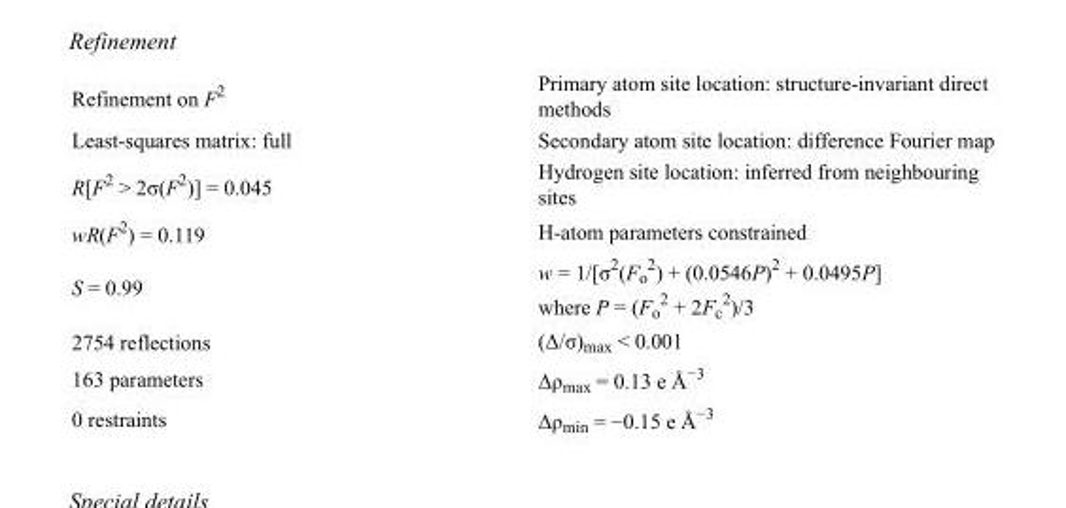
<table><tbody><tr><td>Refinement on F<sup>2</sup></td><td>Primary atom site location: structure-invariant direct methods</td></tr><tr><td>Least-squares matrix: full</td><td>Secondary atom site location: difference Fourier map</td></tr><tr><td>R[F<sup>2</sup> &gt; 2σ(F<sup>2</sup>)] = 0.045</td><td>Hydrogen site location: inferred from neighbouring sites</td></tr><tr><td>wR(F<sup>2</sup>) = 0.119</td><td>H-atom parameters constrained</td></tr><tr><td>S = 0.99</td><td>w = 1/[σ<sup>2</sup>(F<sub>o</sub> <sup>2</sup>) + (0.0546P)<sup>2</sup> + 0.0495P] where P = (F<sub>o</sub> <sup>2</sup> + 2F<sub>c</sub> <sup>2</sup>)/3</td></tr><tr><td>2754 reflections</td><td>(Δ/σ)<sub>max</sub> &lt; 0.001</td></tr><tr><td>163 parameters</td><td>Δρ<sub>max</sub> = 0.13 e Å<sup>−3</sup></td></tr><tr><td>0 restraints</td><td>Δρ<sub>min</sub> = −0.15 e Å<sup>−3</sup></td></tr></tbody></table>